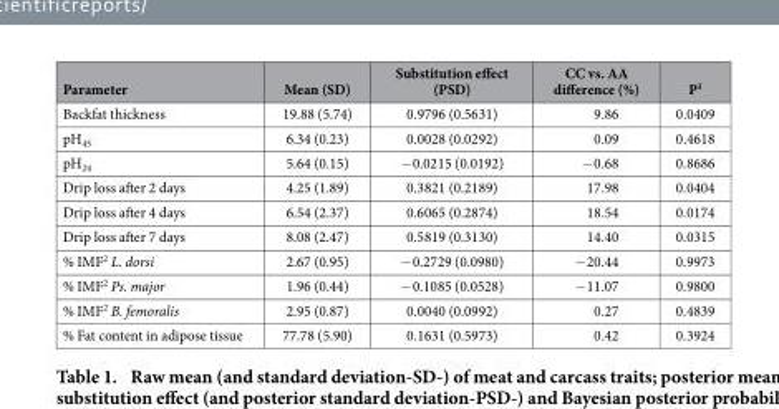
<table><thead><tr><td>Parameter</td><td>Mean (SD)</td><td>Substitution effect (PSD)</td><td>CC vs. AA difference (%)</td><td>P<sup>1</sup></td></tr></thead><tbody><tr><td>Backfat thickness</td><td>19.88 (5.74)</td><td>0.9796 (0.5631)</td><td>9.86</td><td>0.0409</td></tr><tr><td>pH<sub>45</sub></td><td>6.34 (0.23)</td><td>0.0028 (0.0292)</td><td>0.09</td><td>0.4618</td></tr><tr><td>pH<sub>24</sub></td><td>5.64 (0.15)</td><td>− 0.0215 (0.0192)</td><td>− 0.68</td><td>0.8686</td></tr><tr><td>Drip loss after 2 days</td><td>4.25 (1.89)</td><td>0.3821 (0.2189)</td><td>17.98</td><td>0.0404</td></tr><tr><td>Drip loss after 4 days</td><td>6.54 (2.37)</td><td>0.6065 (0.2874)</td><td>18.54</td><td>0.0174</td></tr><tr><td>Drip loss after 7 days</td><td>8.08 (2.47)</td><td>0.5819 (0.3130)</td><td>14.40</td><td>0.0315</td></tr><tr><td>% IMF<sup>2</sup> L. dorsi</td><td>2.67 (0.95)</td><td>− 0.2729 (0.0980)</td><td>− 20.44</td><td>0.9973</td></tr><tr><td>% IMF<sup>2</sup> Ps. major</td><td>1.96 (0.44)</td><td>− 0.1085 (0.0528)</td><td>− 11.07</td><td>0.9800</td></tr><tr><td>% IMF<sup>2</sup> B. femoralis</td><td>2.95 (0.87)</td><td>0.0040 (0.0992)</td><td>0.27</td><td>0.4839</td></tr><tr><td>% Fat content in adipose tissue</td><td>77.78 (5.90)</td><td>0.1631 (0.5973)</td><td>0.42</td><td>0.3924</td></tr></tbody></table>